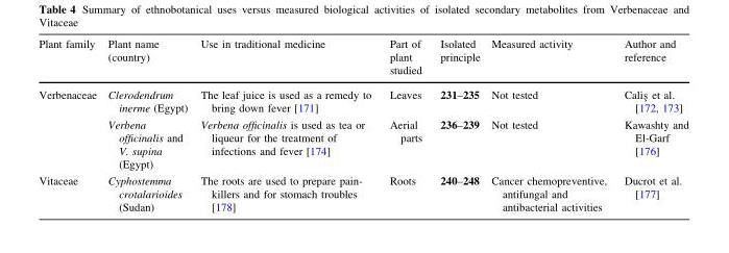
<table><thead><tr><td>Plant family</td><td>Plant name (country)</td><td>Use in traditional medicine</td><td>Part of plant studied</td><td>Isolated principle</td><td>Measured activity</td><td>Author and reference</td></tr></thead><tbody><tr><td rowspan="2">Verbenaceae</td><td>Clerodendrum inerme (Egypt)</td><td>The leaf juice is used as a remedy to bring down fever [171]</td><td>Leaves</td><td>231–235</td><td>Not tested</td><td>Calis¸ et al. [172, 173]</td></tr><tr><td>Verbena officinalis and V. supina (Egypt)</td><td>Verbena officinalis is used as tea or liqueur for the treatment of infections and fever [174]</td><td>Aerial parts</td><td>236–239</td><td>Not tested</td><td>Kawashty and El-Garf [176]</td></tr><tr><td>Vitaceae</td><td>Cyphostemma crotalarioides (Sudan)</td><td>The roots are used to prepare pain- killers and for stomach troubles [178]</td><td>Roots</td><td>240–248</td><td>Cancer chemopreventive, antifungal and antibacterial activities</td><td>Ducrot et al. [177]</td></tr></tbody></table>